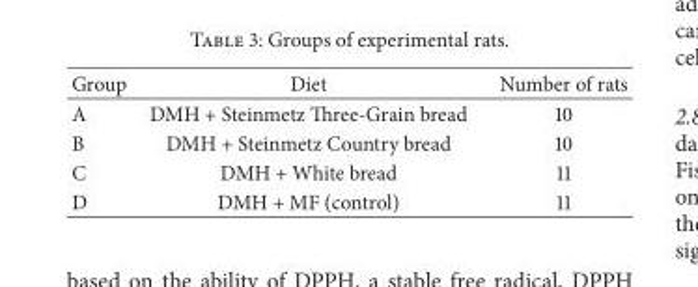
<table><thead><tr><td>Group</td><td>Diet</td><td>Number of rats</td></tr></thead><tbody><tr><td>A</td><td>DMH + Steinmetz Three-Grain bread</td><td>10</td></tr><tr><td>B</td><td>DMH + Steinmetz Country bread</td><td>10</td></tr><tr><td>C</td><td>DMH + White bread</td><td>11</td></tr><tr><td>D</td><td>DMH + MF (control)</td><td>11</td></tr></tbody></table>